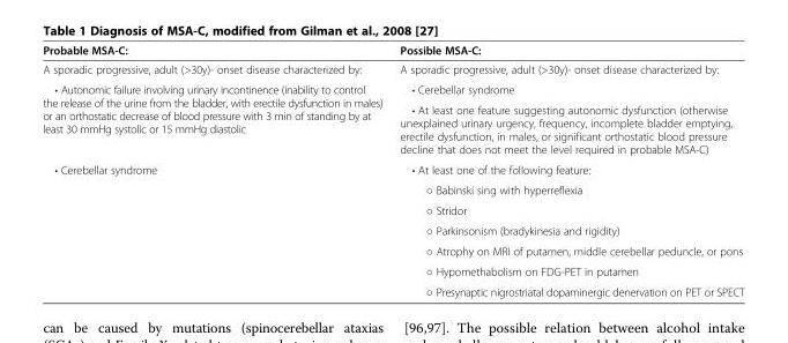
<table><thead><tr><td>Probable MSA-C:</td><td>Possible MSA-C:</td></tr></thead><tbody><tr><td>A sporadic progressive, adult (&gt;30y)- onset disease characterized by:</td><td>A sporadic progressive, adult (&gt;30y)- onset disease characterized by:</td></tr><tr><td rowspan="2">• Autonomic failure involving urinary incontinence (inability to control the release of the urine from the bladder, with erectile dysfunction in males) or an orthostatic decrease of blood pressure with 3 min of standing by at least 30 mmHg systolic or 15 mmHg diastolic</td><td>• Cerebellar syndrome</td></tr><tr><td>• At least one feature suggesting autonomic dysfunction (otherwise unexplained urinary urgency, frequency, incomplete bladder emptying, erectile dysfunction, in males, or significant orthostatic blood pressure decline that does not meet the level required in probable MSA-C)</td></tr><tr><td rowspan="7">• Cerebellar syndrome</td><td>• At least one of the following feature:</td></tr><tr><td>○ Babinski sing with hyperreflexia</td></tr><tr><td>○ Stridor</td></tr><tr><td>○ Parkinsonism (bradykinesia and rigidity)</td></tr><tr><td>○ Atrophy on MRI of putamen, middle cerebellar peduncle, or pons</td></tr><tr><td>○ Hypomethabolism on FDG-PET in putamen</td></tr><tr><td>○ Presynaptic nigrostriatal dopaminergic denervation on PET or SPECT</td></tr></tbody></table>